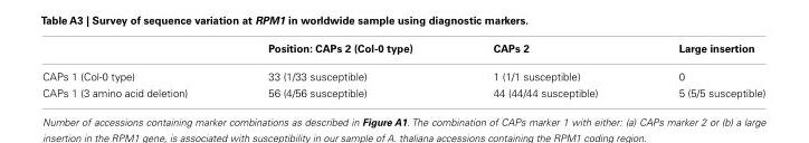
<table><thead><tr><td></td><td>Position: CAPs 2 (Col-0 type)</td><td>CAPs 2</td><td>Large insertion</td></tr></thead><tbody><tr><td>CAPs 1 (Col-0 type)</td><td>33 (1/33 susceptible)</td><td>1 (1/1 susceptible)</td><td>0</td></tr><tr><td>CAPs 1 (3 amino acid deletion)</td><td>56 (4/56 susceptible)</td><td>44 (44/44 susceptible)</td><td>5 (5/5 susceptible)</td></tr></tbody></table>